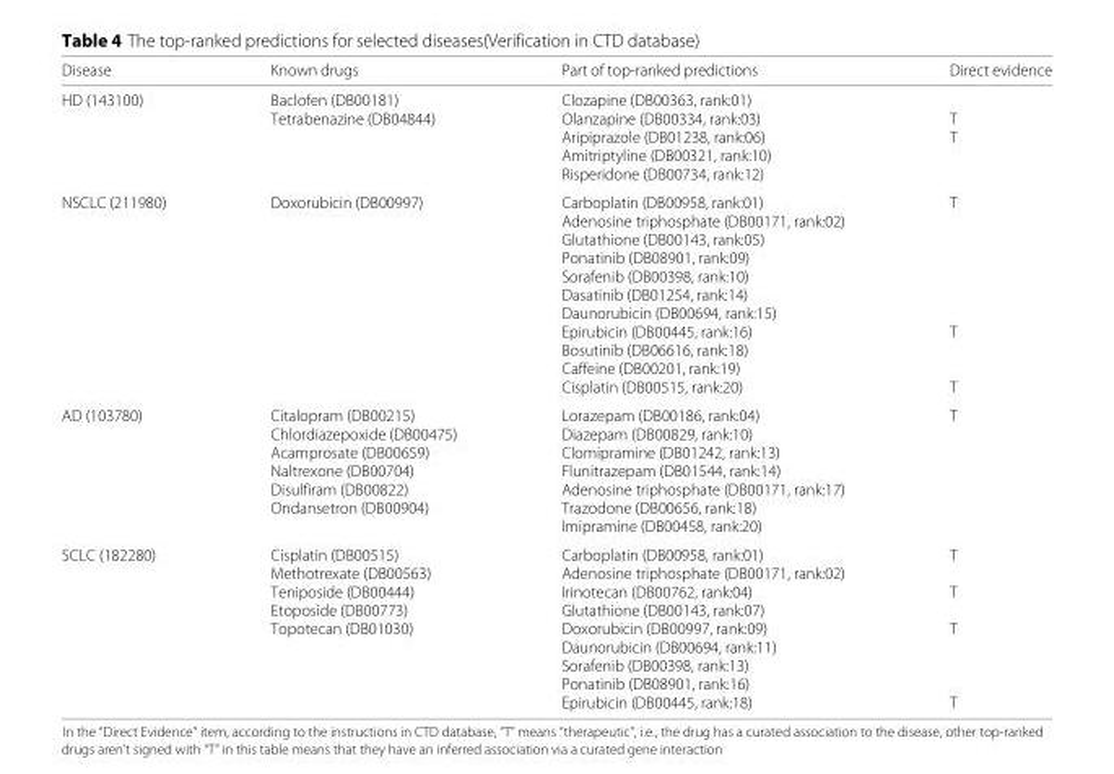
<table><thead><tr><td>Disease</td><td>Known drugs</td><td>Part of top-ranked predictions</td><td>Direct evidence</td></tr></thead><tbody><tr><td rowspan="5">HD (143100)</td><td>Baclofen (DB00181)</td><td>Clozapine (DB00363, rank:01)</td><td></td></tr><tr><td>Tetrabenazine (DB04844)</td><td>Olanzapine (DB00334, rank:03)</td><td>T</td></tr><tr><td></td><td>Aripiprazole (DB01238, rank:06)</td><td>T</td></tr><tr><td></td><td>Amitriptyline (DB00321, rank:10)</td><td></td></tr><tr><td></td><td>Risperidone (DB00734, rank:12)</td><td></td></tr><tr><td rowspan="11">NSCLC (211980)</td><td>Doxorubicin (DB00997)</td><td>Carboplatin (DB00958, rank:01)</td><td>T</td></tr><tr><td></td><td>Adenosine triphosphate (DB00171, rank:02)</td><td></td></tr><tr><td></td><td>Glutathione (DB00143, rank:05)</td><td></td></tr><tr><td></td><td>Ponatinib (DB08901, rank:09)</td><td></td></tr><tr><td></td><td>Sorafenib (DB00398, rank:10)</td><td></td></tr><tr><td></td><td>Dasatinib (DB01254, rank:14)</td><td></td></tr><tr><td></td><td>Daunorubicin (DB00694, rank:15)</td><td></td></tr><tr><td></td><td>Epirubicin (DB00445, rank:16)</td><td>T</td></tr><tr><td></td><td>Bosutinib (DB06616, rank:18)</td><td></td></tr><tr><td></td><td>Caffeine (DB00201, rank:19)</td><td></td></tr><tr><td></td><td>Cisplatin (DB00515, rank:20)</td><td>T</td></tr><tr><td rowspan="7">AD (103780)</td><td>Citalopram (DB00215)</td><td>Lorazepam (DB00186, rank:04)</td><td>T</td></tr><tr><td>Chlordiazepoxide (DB00475)</td><td>Diazepam (DB00829, rank:10)</td><td></td></tr><tr><td>Acamprosate (DB00659)</td><td>Clomipramine (DB01242, rank:13)</td><td></td></tr><tr><td>Naltrexone (DB00704)</td><td>Flunitrazepam (DB01544, rank:14)</td><td></td></tr><tr><td>Disulfiram (DB00822)</td><td>Adenosine triphosphate (DB00171, rank:17)</td><td></td></tr><tr><td>Ondansetron (DB00904)</td><td>Trazodone (DB00656, rank:18)</td><td></td></tr><tr><td></td><td>Imipramine (DB00458, rank:20)</td><td></td></tr><tr><td rowspan="9">SCLC (182280)</td><td>Cisplatin (DB00515)</td><td>Carboplatin (DB00958, rank:01)</td><td>T</td></tr><tr><td>Methotrexate (DB00563)</td><td>Adenosine triphosphate (DB00171, rank:02)</td><td></td></tr><tr><td>Teniposide (DB00444)</td><td>Irinotecan (DB00762, rank:04)</td><td>T</td></tr><tr><td>Etoposide (DB00773)</td><td>Glutathione (DB00143, rank:07)</td><td></td></tr><tr><td>Topotecan (DB01030)</td><td>Doxorubicin (DB00997, rank:09)</td><td>T</td></tr><tr><td></td><td>Daunorubicin (DB00694, rank:11)</td><td></td></tr><tr><td></td><td>Sorafenib (DB00398, rank:13)</td><td></td></tr><tr><td></td><td>Ponatinib (DB08901, rank:16)</td><td></td></tr><tr><td></td><td>Epirubicin (DB00445, rank:18)</td><td>T</td></tr></tbody></table>